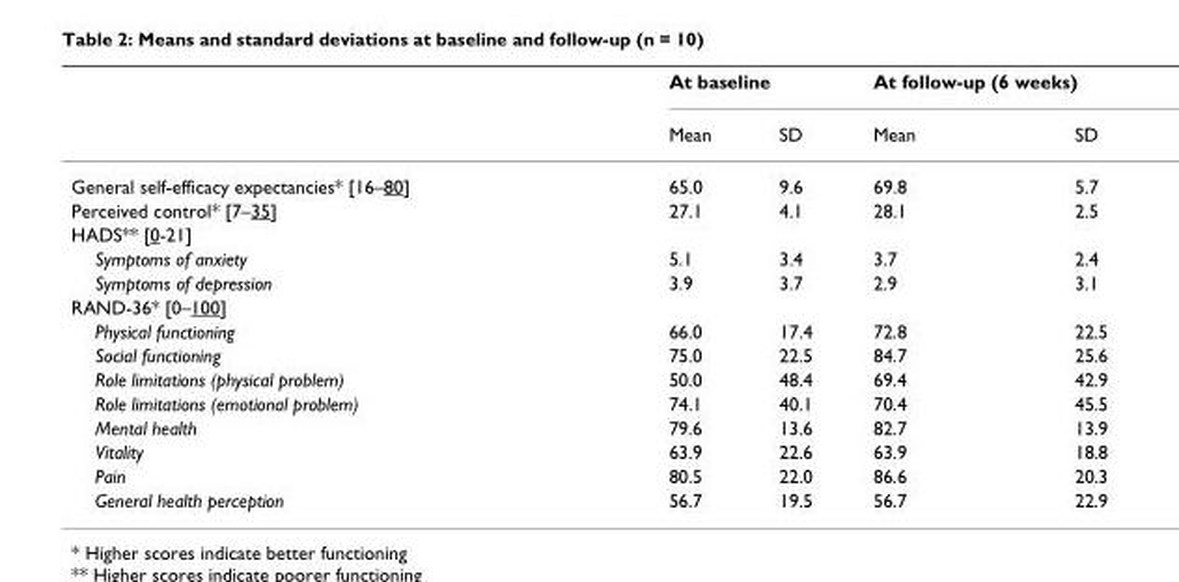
<table><thead><tr><td rowspan="2"></td><td colspan="2">At baseline</td><td colspan="2">At follow-up (6 weeks)</td></tr><tr><td>Mean</td><td>SD</td><td>Mean</td><td>SD</td></tr></thead><tbody><tr><td>General self-efficacy expectancies* [16–80]</td><td>65.0</td><td>9.6</td><td>69.8</td><td>5.7</td></tr><tr><td>Perceived control* [7–35]</td><td>27.1</td><td>4.1</td><td>28.1</td><td>2.5</td></tr><tr><td colspan="5">HADS** [0-21]</td></tr><tr><td>Symptoms of anxiety</td><td>5.1</td><td>3.4</td><td>3.7</td><td>2.4</td></tr><tr><td>Symptoms of depression</td><td>3.9</td><td>3.7</td><td>2.9</td><td>3.1</td></tr><tr><td colspan="5">RAND-36* [0–100]</td></tr><tr><td>Physical functioning</td><td>66.0</td><td>17.4</td><td>72.8</td><td>22.5</td></tr><tr><td>Social functioning</td><td>75.0</td><td>22.5</td><td>84.7</td><td>25.6</td></tr><tr><td>Role limitations (physical problem)</td><td>50.0</td><td>48.4</td><td>69.4</td><td>42.9</td></tr><tr><td>Role limitations (emotional problem)</td><td>74.1</td><td>40.1</td><td>70.4</td><td>45.5</td></tr><tr><td>Mental health</td><td>79.6</td><td>13.6</td><td>82.7</td><td>13.9</td></tr><tr><td>Vitality</td><td>63.9</td><td>22.6</td><td>63.9</td><td>18.8</td></tr><tr><td>Pain</td><td>80.5</td><td>22.0</td><td>86.6</td><td>20.3</td></tr><tr><td>General health perception</td><td>56.7</td><td>19.5</td><td>56.7</td><td>22.9</td></tr></tbody></table>